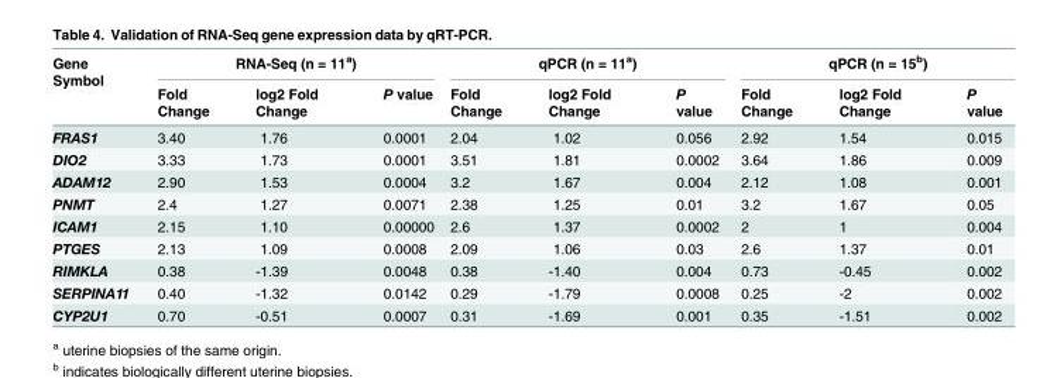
<table><thead><tr><td rowspan="2">Gene Symbol</td><td colspan="3">RNA-Seq (n = 11<sup>a</sup>)</td><td colspan="3">qPCR (n = 11<sup>a</sup>)</td><td colspan="3">qPCR (n = 15<sup>b</sup>)</td></tr><tr><td>Fold Change</td><td>log2 Fold Change</td><td>P value</td><td>Fold Change</td><td>log2 Fold Change</td><td>P value</td><td>Fold Change</td><td>log2 Fold Change</td><td>P value</td></tr></thead><tbody><tr><td>FRAS1</td><td>3.40</td><td>1.76</td><td>0.0001</td><td>2.04</td><td>1.02</td><td>0.056</td><td>2.92</td><td>1.54</td><td>0.015</td></tr><tr><td>DIO2</td><td>3.33</td><td>1.73</td><td>0.0001</td><td>3.51</td><td>1.81</td><td>0.0002</td><td>3.64</td><td>1.86</td><td>0.009</td></tr><tr><td>ADAM12</td><td>2.90</td><td>1.53</td><td>0.0004</td><td>3.2</td><td>1.67</td><td>0.004</td><td>2.12</td><td>1.08</td><td>0.001</td></tr><tr><td>PNMT</td><td>2.4</td><td>1.27</td><td>0.0071</td><td>2.38</td><td>1.25</td><td>0.01</td><td>3.2</td><td>1.67</td><td>0.05</td></tr><tr><td>ICAM1</td><td>2.15</td><td>1.10</td><td>0.00000</td><td>2.6</td><td>1.37</td><td>0.0002</td><td>2</td><td>1</td><td>0.004</td></tr><tr><td>PTGES</td><td>2.13</td><td>1.09</td><td>0.0008</td><td>2.09</td><td>1.06</td><td>0.03</td><td>2.6</td><td>1.37</td><td>0.01</td></tr><tr><td>RIMKLA</td><td>0.38</td><td>-1.39</td><td>0.0048</td><td>0.38</td><td>-1.40</td><td>0.004</td><td>0.73</td><td>-0.45</td><td>0.002</td></tr><tr><td>SERPINA11</td><td>0.40</td><td>-1.32</td><td>0.0142</td><td>0.29</td><td>-1.79</td><td>0.0008</td><td>0.25</td><td>-2</td><td>0.002</td></tr><tr><td>CYP2U1</td><td>0.70</td><td>-0.51</td><td>0.0007</td><td>0.31</td><td>-1.69</td><td>0.001</td><td>0.35</td><td>-1.51</td><td>0.002</td></tr></tbody></table>